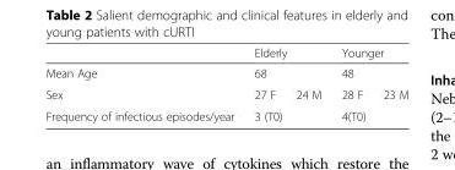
<table><thead><tr><td rowspan="3">Mean Age Sex</td><td rowspan="2" colspan="2">Elderly 68</td><td rowspan="2" colspan="2">Younger 48</td></tr><tr></tr><tr><td>27 F</td><td>24 M</td><td>28 F</td><td>23 M</td></tr></thead><tbody><tr><td>Frequency of infectious episodes/year</td><td colspan="2">3 (T0)</td><td colspan="2">4(T0)</td></tr></tbody></table>